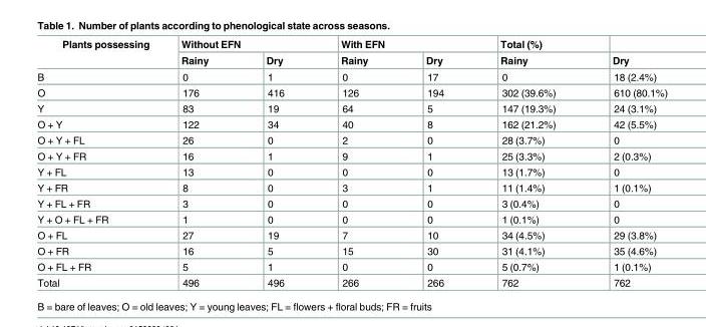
<table><thead><tr><td rowspan="2">Plants possessing</td><td colspan="2">Without EFN</td><td colspan="2">With EFN</td><td rowspan="2">Total (%) Rainy</td><td rowspan="2">Dry</td></tr><tr><td>Rainy</td><td>Dry</td><td>Rainy</td><td>Dry</td></tr></thead><tbody><tr><td>B</td><td>0</td><td>1</td><td>0</td><td>17</td><td>0</td><td>18 (2.4%)</td></tr><tr><td>O</td><td>176</td><td>416</td><td>126</td><td>194</td><td>302 (39.6%)</td><td>610 (80.1%)</td></tr><tr><td>Y</td><td>83</td><td>19</td><td>64</td><td>5</td><td>147 (19.3%)</td><td>24 (3.1%)</td></tr><tr><td>O + Y</td><td>122</td><td>34</td><td>40</td><td>8</td><td>162 (21.2%)</td><td>42 (5.5%)</td></tr><tr><td>O + Y + FL</td><td>26</td><td>0</td><td>2</td><td>0</td><td>28 (3.7%)</td><td>0</td></tr><tr><td>O + Y + FR</td><td>16</td><td>1</td><td>9</td><td>1</td><td>25 (3.3%)</td><td>2 (0.3%)</td></tr><tr><td>Y + FL</td><td>13</td><td>0</td><td>0</td><td>0</td><td>13 (1.7%)</td><td>0</td></tr><tr><td>Y + FR</td><td>8</td><td>0</td><td>3</td><td>1</td><td>11 (1.4%)</td><td>1 (0.1%)</td></tr><tr><td>Y + FL + FR</td><td>3</td><td>0</td><td>0</td><td>0</td><td>3 (0.4%)</td><td>0</td></tr><tr><td>Y + O + FL + FR</td><td>1</td><td>0</td><td>0</td><td>0</td><td>1 (0.1%)</td><td>0</td></tr><tr><td>O + FL</td><td>27</td><td>19</td><td>7</td><td>10</td><td>34 (4.5%)</td><td>29 (3.8%)</td></tr><tr><td>O + FR</td><td>16</td><td>5</td><td>15</td><td>30</td><td>31 (4.1%)</td><td>35 (4.6%)</td></tr><tr><td>O + FL + FR</td><td>5</td><td>1</td><td>0</td><td>0</td><td>5 (0.7%)</td><td>1 (0.1%)</td></tr><tr><td>Total</td><td>496</td><td>496</td><td>266</td><td>266</td><td>762</td><td>762</td></tr></tbody></table>